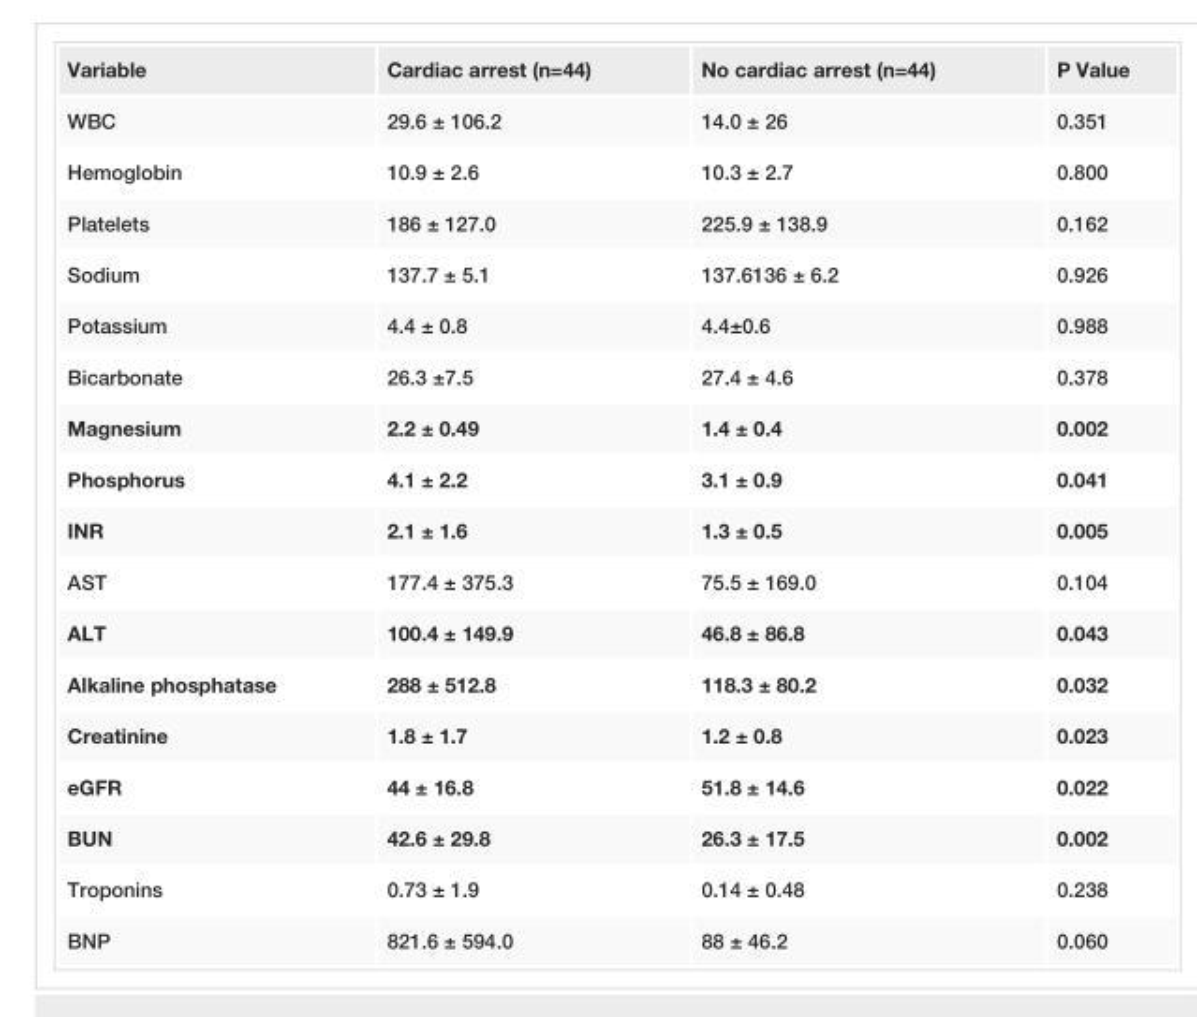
<table><tbody><tr><td>Variable</td><td>Cardiac arrest (n=44)</td><td>No cardiac arrest (n=44)</td><td>P Value</td></tr><tr><td>WBC</td><td>29.6 ± 106.2</td><td>14.0 ± 26</td><td>0.351</td></tr><tr><td>Hemoglobin</td><td>10.9 ± 2.6</td><td>10.3 ± 2.7</td><td>0.800</td></tr><tr><td>Platelets</td><td>186 ± 127.0</td><td>225.9 ± 138.9</td><td>0.162</td></tr><tr><td>Sodium</td><td>137.7 ± 5.1</td><td>137.6136 ± 6.2</td><td>0.926</td></tr><tr><td>Potassium</td><td>4.4 ± 0.8</td><td>4.4±0.6</td><td>0.988</td></tr><tr><td>Bicarbonate</td><td>26.3 ±7.5</td><td>27.4 ± 4.6</td><td>0.378</td></tr><tr><td>Magnesium</td><td>2.2 ± 0.49</td><td>1.4 ± 0.4</td><td>0.002</td></tr><tr><td>Phosphorus</td><td>4.1 ± 2.2</td><td>3.1 ± 0.9</td><td>0.041</td></tr><tr><td>INR</td><td>2.1 ± 1.6</td><td>1.3 ± 0.5</td><td>0.005</td></tr><tr><td>AST</td><td>177.4 ± 375.3</td><td>75.5 ± 169.0</td><td>0.104</td></tr><tr><td>ALT</td><td>100.4 ± 149.9</td><td>46.8 ± 86.8</td><td>0.043</td></tr><tr><td>Alkaline phosphatase</td><td>288 ± 512.8</td><td>118.3 ± 80.2</td><td>0.032</td></tr><tr><td>Creatinine</td><td>1.8 ± 1.7</td><td>1.2 ± 0.8</td><td>0.023</td></tr><tr><td>eGFR</td><td>44 ± 16.8</td><td>51.8 ± 14.6</td><td>0.022</td></tr><tr><td>BUN</td><td>42.6 ± 29.8</td><td>26.3 ± 17.5</td><td>0.002</td></tr><tr><td>Troponins</td><td>0.73 ± 1.9</td><td>0.14 ± 0.48</td><td>0.238</td></tr><tr><td>BNP</td><td>821.6 ± 594.0</td><td>88 ± 46.2</td><td>0.060</td></tr></tbody></table>